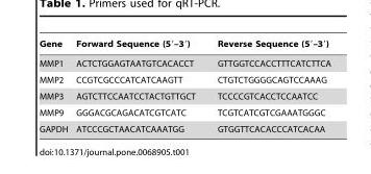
<table><thead><tr><td>Gene</td><td>Forward Sequence (5′–3′)</td><td>Reverse Sequence (5′–3′)</td></tr></thead><tbody><tr><td>MMP1</td><td>ACTCTGGAGTAATGTCACACCT</td><td>GTTGGTCCACCTTTCATCTTCA</td></tr><tr><td>MMP2</td><td>CCGTCGCCCATCATCAAGTT</td><td>CTGTCTGGGGCAGTCCAAAG</td></tr><tr><td>MMP3</td><td>AGTCTTCCAATCCTACTGTTGCT</td><td>TCCCCGTCACCTCCAATCC</td></tr><tr><td>MMP9</td><td>GGGACGCAGACATCGTCATC</td><td>TCGTCATCGTCGAAATGGGC</td></tr><tr><td>GAPDH</td><td>ATCCCGCTAACATCAAATGG</td><td>GTGGTTCACACCCATCACAA</td></tr></tbody></table>